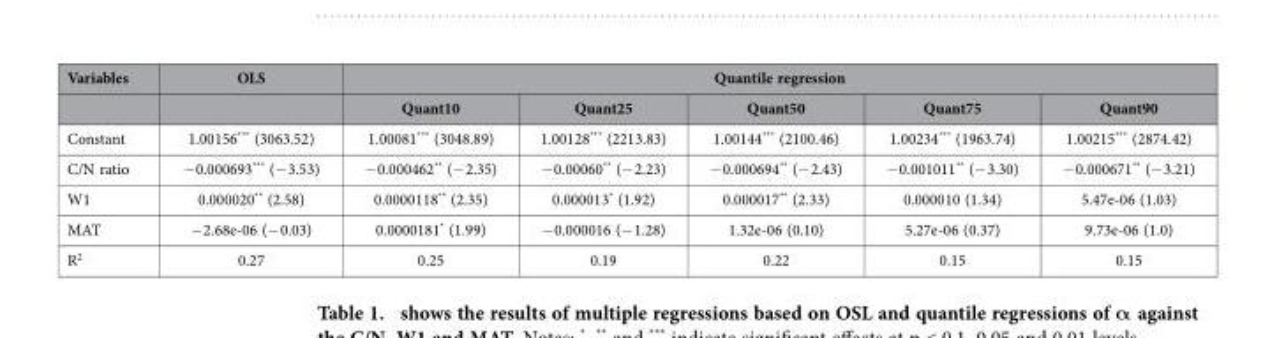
<table><thead><tr><td rowspan="2">Variables</td><td rowspan="2">OLS</td><td colspan="5">Quantile regression</td></tr><tr><td>Quant10</td><td>Quant25</td><td>Quant50</td><td>Quant75</td><td>Quant90</td></tr></thead><tbody><tr><td>Constant</td><td>1.00156*** (3063.52)</td><td>1.00081*** (3048.89)</td><td>1.00128*** (2213.83)</td><td>1.00144*** (2100.46)</td><td>1.00234*** (1963.74)</td><td>1.00215*** (2874.42)</td></tr><tr><td>C/N ratio</td><td>− 0.000693*** (− 3.53)</td><td>− 0.000462** (− 2.35)</td><td>− 0.00060** (− 2.23)</td><td>− 0.000694** (− 2.43)</td><td>− 0.001011** (− 3.30)</td><td>− 0.000671** (− 3.21)</td></tr><tr><td>W1</td><td>0.000020** (2.58)</td><td>0.0000118** (2.35)</td><td>0.000013* (1.92)</td><td>0.000017** (2.33)</td><td>0.000010 (1.34)</td><td>5.47e-06 (1.03)</td></tr><tr><td>MAT</td><td>− 2.68e-06 (− 0.03)</td><td>0.0000181* (1.99)</td><td>− 0.000016 (− 1.28)</td><td>1.32e-06 (0.10)</td><td>5.27e-06 (0.37)</td><td>9.73e-06 (1.0)</td></tr><tr><td>R<sup>2</sup></td><td>0.27</td><td>0.25</td><td>0.19</td><td>0.22</td><td>0.15</td><td>0.15</td></tr></tbody></table>